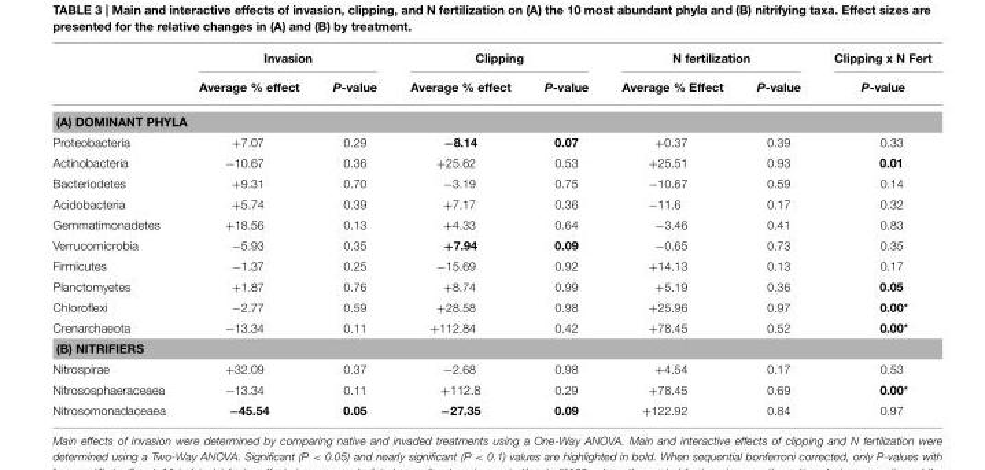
<table><thead><tr><td rowspan="2"></td><td colspan="2">Invasion</td><td colspan="2">Clipping</td><td colspan="2">N fertilization</td><td rowspan="2">Clipping x N Fert P-value</td></tr><tr><td>Average % effect</td><td>P-value</td><td>Average % effect</td><td>P-value</td><td>Average % Effect</td><td>P-value</td></tr></thead><tbody><tr><td colspan="8">(A) DOMINANT PHYLA</td></tr><tr><td>Proteobacteria</td><td>+7.07</td><td>0.29</td><td>−8.14</td><td>0.07</td><td>+0.37</td><td>0.39</td><td>0.33</td></tr><tr><td>Actinobacteria</td><td>−10.67</td><td>0.36</td><td>+25.62</td><td>0.53</td><td>+25.51</td><td>0.93</td><td>0.01</td></tr><tr><td>Bacteriodetes</td><td>+9.31</td><td>0.70</td><td>−3.19</td><td>0.75</td><td>−10.67</td><td>0.59</td><td>0.14</td></tr><tr><td>Acidobacteria</td><td>+5.74</td><td>0.39</td><td>+7.17</td><td>0.36</td><td>−11.6</td><td>0.17</td><td>0.32</td></tr><tr><td>Gemmatimonadetes</td><td>+18.56</td><td>0.13</td><td>+4.33</td><td>0.64</td><td>−3.46</td><td>0.41</td><td>0.83</td></tr><tr><td>Verrucomicrobia</td><td>−5.93</td><td>0.35</td><td>+7.94</td><td>0.09</td><td>−0.65</td><td>0.73</td><td>0.35</td></tr><tr><td>Firmicutes</td><td>−1.37</td><td>0.25</td><td>−15.69</td><td>0.92</td><td>+14.13</td><td>0.13</td><td>0.17</td></tr><tr><td>Planctomyetes</td><td>+1.87</td><td>0.76</td><td>+8.74</td><td>0.99</td><td>+5.19</td><td>0.36</td><td>0.05</td></tr><tr><td>Chloroflexi</td><td>−2.77</td><td>0.59</td><td>+28.58</td><td>0.98</td><td>+25.96</td><td>0.97</td><td>0.00*</td></tr><tr><td>Crenarchaeota</td><td>−13.34</td><td>0.11</td><td>+112.84</td><td>0.42</td><td>+78.45</td><td>0.52</td><td>0.00*</td></tr><tr><td colspan="8">(B) NITRIFIERS</td></tr><tr><td>Nitrospirae</td><td>+32.09</td><td>0.37</td><td>−2.68</td><td>0.98</td><td>+4.54</td><td>0.17</td><td>0.53</td></tr><tr><td>Nitrososphaeraceaea</td><td>−13.34</td><td>0.11</td><td>+112.8</td><td>0.29</td><td>+78.45</td><td>0.69</td><td>0.00*</td></tr><tr><td>Nitrosomonadaceaea</td><td>−45.54</td><td>0.05</td><td>−27.35</td><td>0.09</td><td>+122.92</td><td>0.84</td><td>0.97</td></tr></tbody></table>